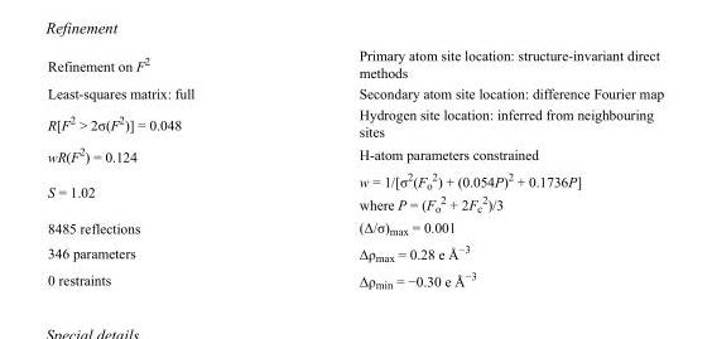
<table><tbody><tr><td>Refinement on F<sup>2</sup></td><td>Primary atom site location: structure-invariant direct methods</td></tr><tr><td>Least-squares matrix: full</td><td>Secondary atom site location: difference Fourier map</td></tr><tr><td>R[F<sup>2</sup> &gt; 2σ(F<sup>2</sup>)] = 0.048</td><td>Hydrogen site location: inferred from neighbouring sites</td></tr><tr><td>wR(F<sup>2</sup>) = 0.124</td><td>H-atom parameters constrained</td></tr><tr><td>S = 1.02</td><td>w = 1/[σ<sup>2</sup>(F<sub>o</sub> <sup>2</sup>) + (0.054P)<sup>2</sup> + 0.1736P] where P = (F<sub>o</sub> <sup>2</sup> + 2F<sub>c</sub> <sup>2</sup>)/3</td></tr><tr><td>8485 reflections</td><td>(Δ/σ)<sub>max</sub> = 0.001</td></tr><tr><td>346 parameters</td><td>Δρ<sub>max</sub> = 0.28 e Å<sup>−3</sup></td></tr><tr><td>0 restraints</td><td>Δρ<sub>min</sub> = −0.30 e Å<sup>−3</sup></td></tr></tbody></table>